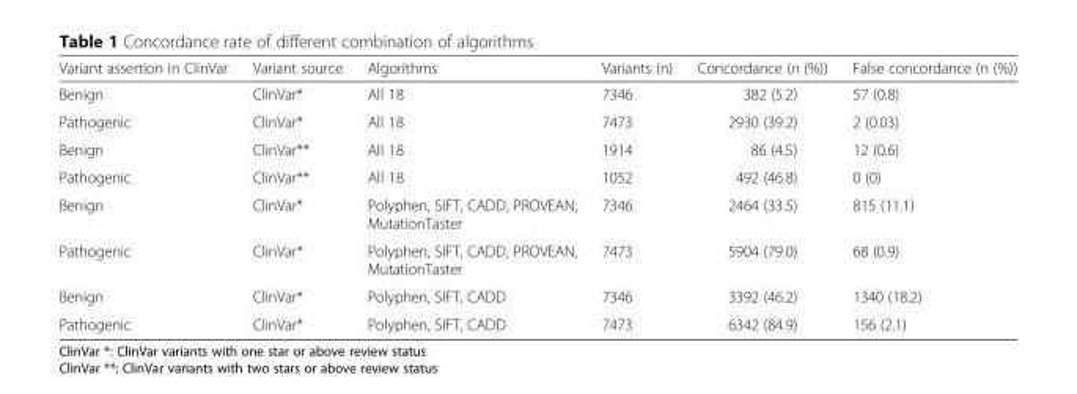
<table><thead><tr><td>Variant assertion in ClinVar</td><td>Variant source</td><td>Algorithms</td><td>Variants (n)</td><td>Concordance (n (%))</td><td>False concordance (n (%))</td></tr></thead><tbody><tr><td>Benign</td><td>ClinVar*</td><td>All 18</td><td>7346</td><td>382 (5.2)</td><td>57 (0.8)</td></tr><tr><td>Pathogenic</td><td>ClinVar*</td><td>All 18</td><td>7473</td><td>2930 (39.2)</td><td>2 (0.03)</td></tr><tr><td>Benign</td><td>ClinVar**</td><td>All 18</td><td>1914</td><td>86 (4.5)</td><td>12 (0.6)</td></tr><tr><td>Pathogenic</td><td>ClinVar**</td><td>All 18</td><td>1052</td><td>492 (46.8)</td><td>0 (0)</td></tr><tr><td>Benign</td><td>ClinVar*</td><td>Polyphen, SIFT, CADD, PROVEAN, MutationTaster</td><td>7346</td><td>2464 (33.5)</td><td>815 (11.1)</td></tr><tr><td>Pathogenic</td><td>ClinVar*</td><td>Polyphen, SIFT, CADD, PROVEAN, MutationTaster</td><td>7473</td><td>5904 (79.0)</td><td>68 (0.9)</td></tr><tr><td>Benign</td><td>ClinVar*</td><td>Polyphen, SIFT, CADD</td><td>7346</td><td>3392 (46.2)</td><td>1340 (18.2)</td></tr><tr><td>Pathogenic</td><td>ClinVar*</td><td>Polyphen, SIFT, CADD</td><td>7473</td><td>6342 (84.9)</td><td>156 (2.1)</td></tr></tbody></table>